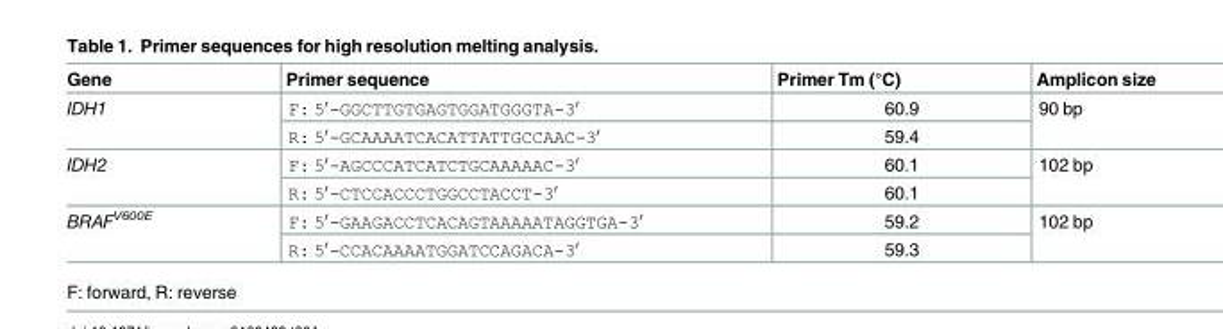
<table><thead><tr><td>Gene</td><td>Primer sequence</td><td>Primer Tm (°C)</td><td>Amplicon size</td></tr></thead><tbody><tr><td rowspan="2">IDH1</td><td>F: 5′-GGCTTGTGAGTGGATGGGTA-3′</td><td>60.9</td><td rowspan="2">90 bp</td></tr><tr><td>R: 5′-GCAAAATCACATTATTGCCAAC-3′</td><td>59.4</td></tr><tr><td rowspan="2">IDH2</td><td>F: 5′-AGCCCATCATCTGCAAAAAC-3′</td><td>60.1</td><td rowspan="2">102 bp</td></tr><tr><td>R: 5′-CTCCACCCTGGCCTACCT-3′</td><td>60.1</td></tr><tr><td rowspan="2">BRAF<sup>V600E</sup></td><td>F: 5′-GAAGACCTCACAGTAAAAATAGGTGA-3′</td><td>59.2</td><td rowspan="2">102 bp</td></tr><tr><td>R: 5′-CCACAAAATGGATCCAGACA-3′</td><td>59.3</td></tr></tbody></table>